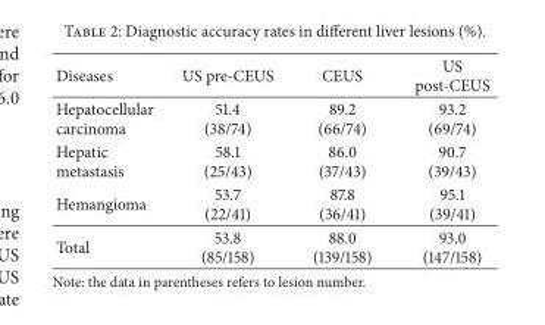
<table><thead><tr><td>Diseases</td><td>US pre-CEUS</td><td>CEUS</td><td>US post-CEUS</td></tr></thead><tbody><tr><td>Hepatocellular carcinoma</td><td>51.4 (38/74)</td><td>89.2 (66/74)</td><td>93.2 (69/74)</td></tr><tr><td>Hepatic metastasis</td><td>58.1 (25/43)</td><td>86.0 (37/43)</td><td>90.7 (39/43)</td></tr><tr><td>Hemangioma</td><td>53.7 (22/41)</td><td>87.8 (36/41)</td><td>95.1 (39/41)</td></tr><tr><td>Total</td><td>53.8 (85/158)</td><td>88.0 (139/158)</td><td>93.0 (147/158)</td></tr></tbody></table>